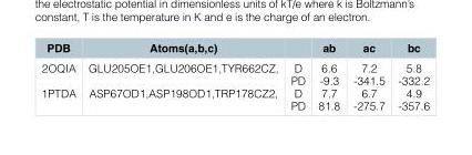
<table><thead><tr><td>PDB</td><td>Atoms(a,b,c)</td><td></td><td>ab</td><td>ac</td><td>bc</td></tr></thead><tbody><tr><td>2OQIA 1PTDA</td><td>GLU205OE1,GLU206OE1,TYR662CZ, ASP67OD1,ASP198OD1,TRP178CZ2,</td><td>D PD D PD</td><td>6.6 -9.3 7.7 81.8</td><td>7.2 -341.5 6.7 -275.7</td><td>5.8 -332.2 4.9 -357.6</td></tr></tbody></table>